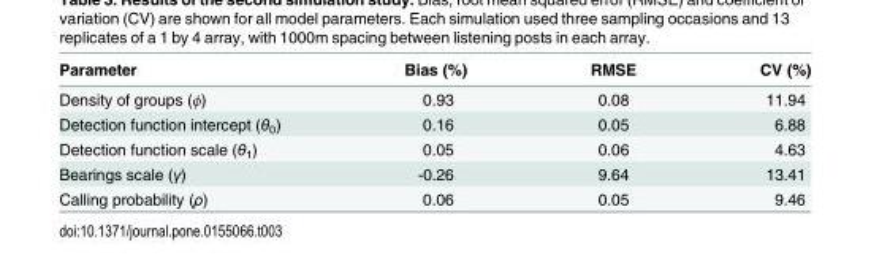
<table><thead><tr><td>Parameter</td><td>Bias (%)</td><td>RMSE</td><td>CV (%)</td></tr></thead><tbody><tr><td>Density of groups (ϕ)</td><td>0.93</td><td>0.08</td><td>11.94</td></tr><tr><td>Detection function intercept (θ<sub>0</sub>)</td><td>0.16</td><td>0.05</td><td>6.88</td></tr><tr><td>Detection function scale (θ<sub>1</sub>)</td><td>0.05</td><td>0.06</td><td>4.63</td></tr><tr><td>Bearings scale (γ)</td><td>-0.26</td><td>9.64</td><td>13.41</td></tr><tr><td>Calling probability (ρ)</td><td>0.06</td><td>0.05</td><td>9.46</td></tr></tbody></table>